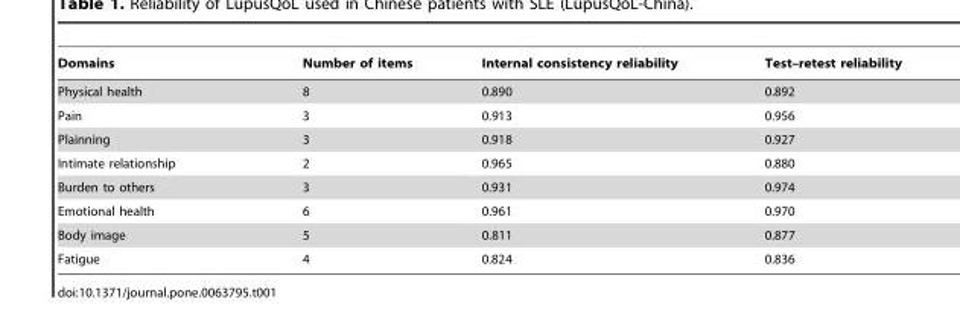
<table><thead><tr><td>Domains</td><td>Number of items</td><td>Internal consistency reliability</td><td>Test–retest reliability</td></tr></thead><tbody><tr><td>Physical health</td><td>8</td><td>0.890</td><td>0.892</td></tr><tr><td>Pain</td><td>3</td><td>0.913</td><td>0.956</td></tr><tr><td>Plainning</td><td>3</td><td>0.918</td><td>0.927</td></tr><tr><td>Intimate relationship</td><td>2</td><td>0.965</td><td>0.880</td></tr><tr><td>Burden to others</td><td>3</td><td>0.931</td><td>0.974</td></tr><tr><td>Emotional health</td><td>6</td><td>0.961</td><td>0.970</td></tr><tr><td>Body image</td><td>5</td><td>0.811</td><td>0.877</td></tr><tr><td>Fatigue</td><td>4</td><td>0.824</td><td>0.836</td></tr></tbody></table>